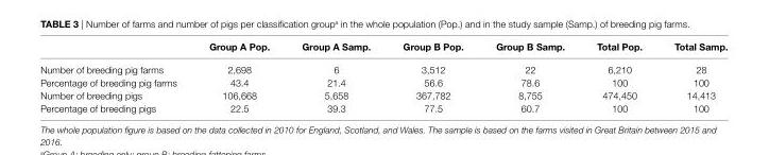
<table><thead><tr><td></td><td>group a Pop.</td><td>group a samp.</td><td>group B Pop.</td><td>group B samp.</td><td>Total Pop.</td><td>Total samp.</td></tr></thead><tbody><tr><td>Number of breeding pig farms</td><td>2,698</td><td>6</td><td>3,512</td><td>22</td><td>6,210</td><td>28</td></tr><tr><td>Percentage of breeding pig farms</td><td>43.4</td><td>21.4</td><td>56.6</td><td>78.6</td><td>100</td><td>100</td></tr><tr><td>Number of breeding pigs</td><td>106,668</td><td>5,658</td><td>367,782</td><td>8,755</td><td>474,450</td><td>14,413</td></tr><tr><td>Percentage of breeding pigs</td><td>22.5</td><td>39.3</td><td>77.5</td><td>60.7</td><td>100</td><td>100</td></tr></tbody></table>